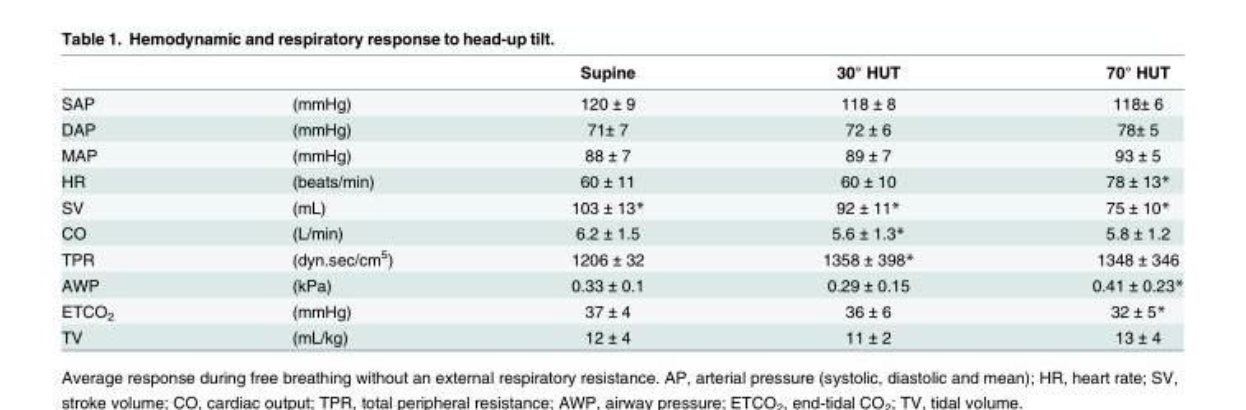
<table><thead><tr><td></td><td></td><td>Supine</td><td>30° HUT</td><td>70° HUT</td></tr></thead><tbody><tr><td>SAP</td><td>(mmHg)</td><td>120 ± 9</td><td>118 ± 8</td><td>118± 6</td></tr><tr><td>DAP</td><td>(mmHg)</td><td>71± 7</td><td>72 ± 6</td><td>78± 5</td></tr><tr><td>MAP</td><td>(mmHg)</td><td>88 ± 7</td><td>89 ± 7</td><td>93 ± 5</td></tr><tr><td>HR</td><td>(beats/min)</td><td>60 ± 11</td><td>60 ± 10</td><td>78 ± 13*</td></tr><tr><td>SV</td><td>(mL)</td><td>103 ± 13*</td><td>92 ± 11*</td><td>75 ± 10*</td></tr><tr><td>CO</td><td>(L/min)</td><td>6.2 ± 1.5</td><td>5.6 ± 1.3*</td><td>5.8 ± 1.2</td></tr><tr><td>TPR</td><td>(dyn.sec/cm<sup>5</sup>)</td><td>1206 ± 32</td><td>1358 ± 398*</td><td>1348 ± 346</td></tr><tr><td>AWP</td><td>(kPa)</td><td>0.33 ± 0.1</td><td>0.29 ± 0.15</td><td>0.41 ± 0.23*</td></tr><tr><td>ETCO<sub>2</sub></td><td>(mmHg)</td><td>37 ± 4</td><td>36 ± 6</td><td>32 ± 5*</td></tr><tr><td>TV</td><td>(mL/kg)</td><td>12 ± 4</td><td>11 ± 2</td><td>13 ± 4</td></tr></tbody></table>